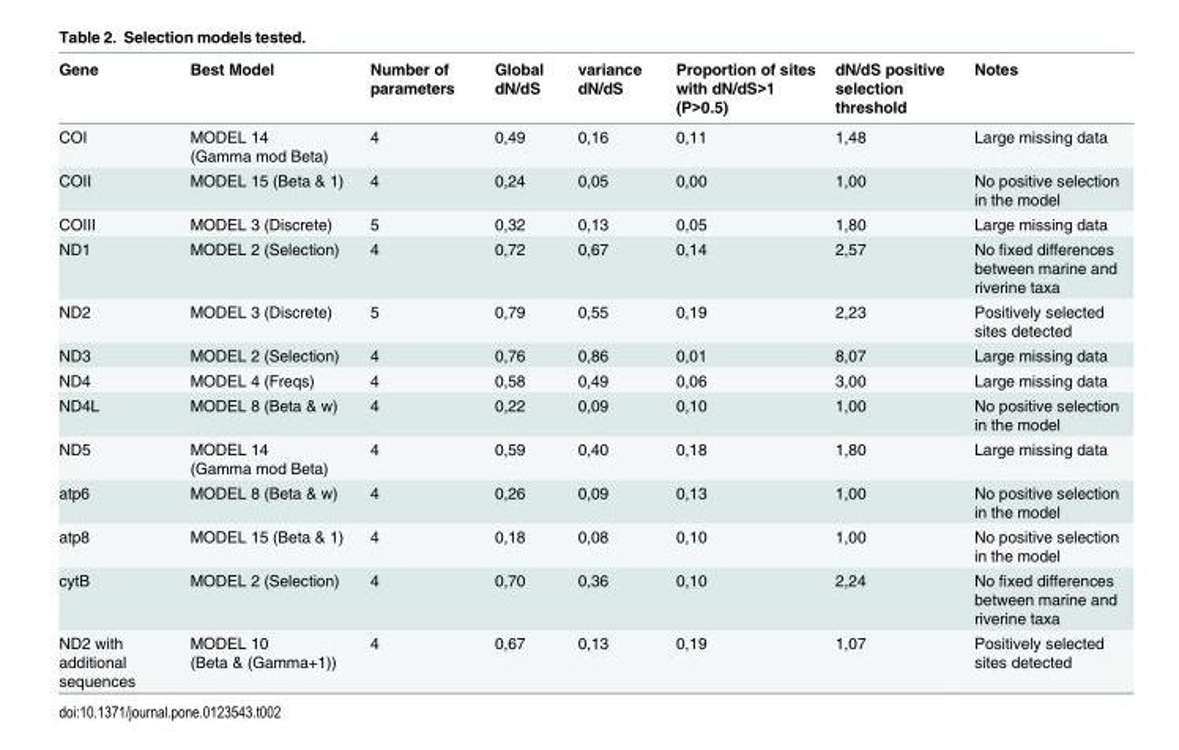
<table><thead><tr><td>Gene</td><td>Best Model</td><td>Number of parameters</td><td>Global dN/dS</td><td>variance dN/dS</td><td>Proportion of sites with dN/dS&gt;1 (P&gt;0.5)</td><td>dN/dS positive selection threshold</td><td>Notes</td></tr></thead><tbody><tr><td>COI</td><td>MODEL 14 (Gamma mod Beta)</td><td>4</td><td>0,49</td><td>0,16</td><td>0,11</td><td>1,48</td><td>Large missing data</td></tr><tr><td>COII</td><td>MODEL 15 (Beta &amp; 1)</td><td>4</td><td>0,24</td><td>0,05</td><td>0,00</td><td>1,00</td><td>No positive selection in the model</td></tr><tr><td>COIII</td><td>MODEL 3 (Discrete)</td><td>5</td><td>0,32</td><td>0,13</td><td>0,05</td><td>1,80</td><td>Large missing data</td></tr><tr><td>ND1</td><td>MODEL 2 (Selection)</td><td>4</td><td>0,72</td><td>0,67</td><td>0,14</td><td>2,57</td><td>No fixed differences between marine and riverine taxa</td></tr><tr><td>ND2</td><td>MODEL 3 (Discrete)</td><td>5</td><td>0,79</td><td>0,55</td><td>0,19</td><td>2,23</td><td>Positively selected sites detected</td></tr><tr><td>ND3</td><td>MODEL 2 (Selection)</td><td>4</td><td>0,76</td><td>0,86</td><td>0,01</td><td>8,07</td><td>Large missing data</td></tr><tr><td>ND4</td><td>MODEL 4 (Freqs)</td><td>4</td><td>0,58</td><td>0,49</td><td>0,06</td><td>3,00</td><td>Large missing data</td></tr><tr><td>ND4L</td><td>MODEL 8 (Beta &amp; w)</td><td>4</td><td>0,22</td><td>0,09</td><td>0,10</td><td>1,00</td><td>No positive selection in the model</td></tr><tr><td>ND5</td><td>MODEL 14 (Gamma mod Beta)</td><td>4</td><td>0,59</td><td>0,40</td><td>0,18</td><td>1,80</td><td>Large missing data</td></tr><tr><td>atp6</td><td>MODEL 8 (Beta &amp; w)</td><td>4</td><td>0,26</td><td>0,09</td><td>0,13</td><td>1,00</td><td>No positive selection in the model</td></tr><tr><td>atp8</td><td>MODEL 15 (Beta &amp; 1)</td><td>4</td><td>0,18</td><td>0,08</td><td>0,10</td><td>1,00</td><td>No positive selection in the model</td></tr><tr><td>cytB</td><td>MODEL 2 (Selection)</td><td>4</td><td>0,70</td><td>0,36</td><td>0,10</td><td>2,24</td><td>No fixed differences between marine and riverine taxa</td></tr><tr><td>ND2 with additional sequences</td><td>MODEL 10 (Beta &amp; (Gamma+1))</td><td>4</td><td>0,67</td><td>0,13</td><td>0,19</td><td>1,07</td><td>Positively selected sites detected</td></tr></tbody></table>